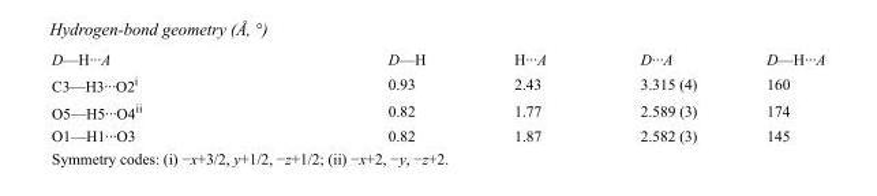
<table><tbody><tr><td>D—H···A</td><td>D—H</td><td>H···A</td><td>D···A</td><td>D—H···A</td></tr><tr><td>C3—H3···O2<sup>i</sup></td><td>0.93</td><td>2.43</td><td>3.315 (4)</td><td>160</td></tr><tr><td>O5—H5···O4<sup>ii</sup></td><td>0.82</td><td>1.77</td><td>2.589 (3)</td><td>174</td></tr><tr><td>O1—H1···O3</td><td>0.82</td><td>1.87</td><td>2.582 (3)</td><td>145</td></tr></tbody></table>